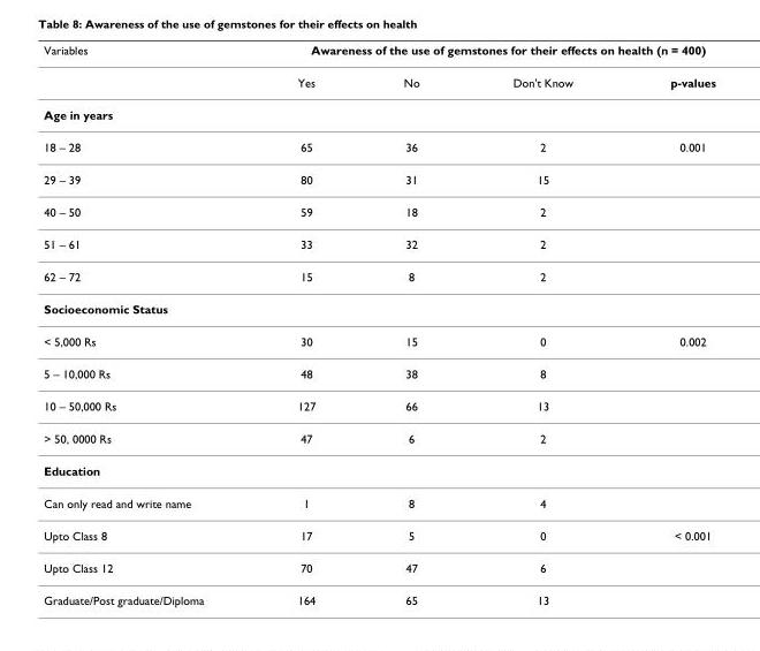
<table><thead><tr><td rowspan="2">Variables</td><td colspan="4">Awareness of the use of gemstones for their effects on health (n = 400)</td></tr><tr><td>Yes</td><td>No</td><td>Don&#x27;t Know</td><td>p-values</td></tr></thead><tbody><tr><td colspan="5">Age in years</td></tr><tr><td>18 – 28</td><td>65</td><td>36</td><td>2</td><td>0.001</td></tr><tr><td>29 – 39</td><td>80</td><td>31</td><td>15</td><td></td></tr><tr><td>40 – 50</td><td>59</td><td>18</td><td>2</td><td></td></tr><tr><td>51 – 61</td><td>33</td><td>32</td><td>2</td><td></td></tr><tr><td>62 – 72</td><td>15</td><td>8</td><td>2</td><td></td></tr><tr><td colspan="5">Socioeconomic Status</td></tr><tr><td>&lt; 5,000 Rs</td><td>30</td><td>15</td><td>0</td><td>0.002</td></tr><tr><td>5 – 10,000 Rs</td><td>48</td><td>38</td><td>8</td><td></td></tr><tr><td>10 – 50,000 Rs</td><td>127</td><td>66</td><td>13</td><td></td></tr><tr><td>&gt; 50, 0000 Rs</td><td>47</td><td>6</td><td>2</td><td></td></tr><tr><td colspan="5">Education</td></tr><tr><td>Can only read and write name</td><td>1</td><td>8</td><td>4</td><td></td></tr><tr><td>Upto Class 8</td><td>17</td><td>5</td><td>0</td><td>&lt; 0.001</td></tr><tr><td>Upto Class 12</td><td>70</td><td>47</td><td>6</td><td></td></tr><tr><td>Graduate/Post graduate/Diploma</td><td>164</td><td>65</td><td>13</td><td></td></tr></tbody></table>